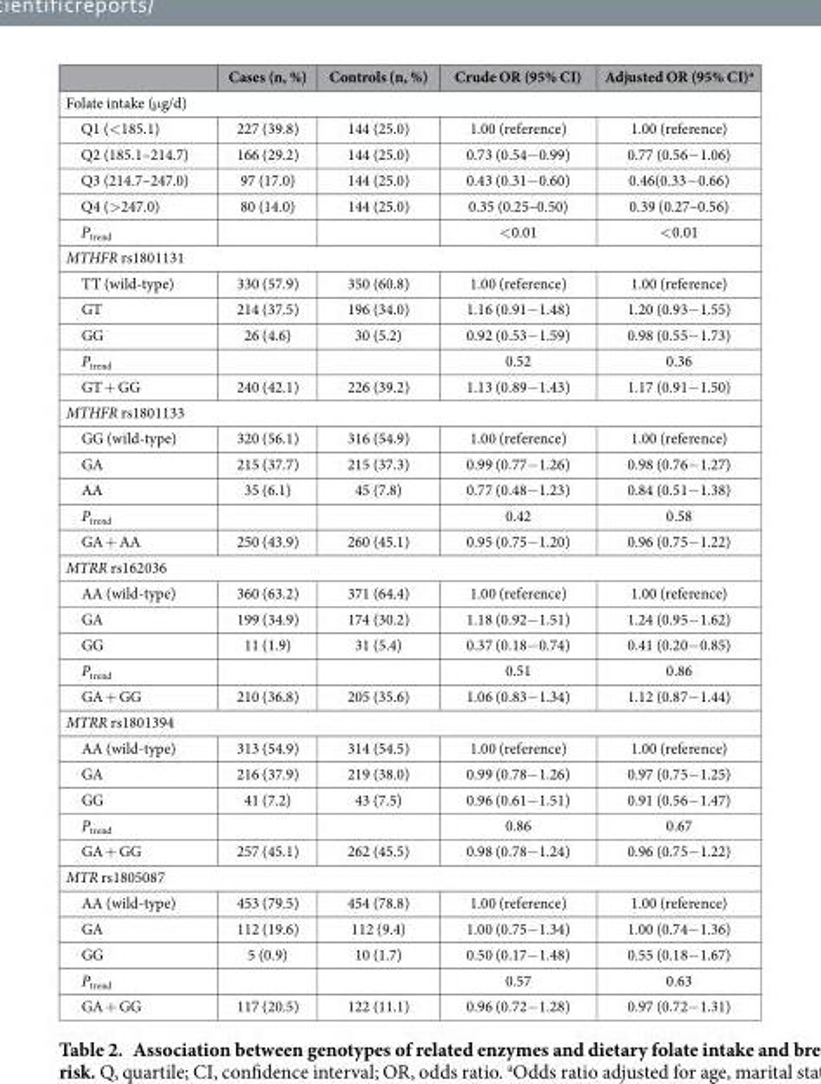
<table><thead><tr><td></td><td>Cases (n, %)</td><td>Controls (n, %)</td><td>Crude OR (95% CI)</td><td>Adjusted OR (95% CI)<sup>a</sup></td></tr></thead><tbody><tr><td colspan="5">Folate intake (μ g/d)</td></tr><tr><td>Q1 (&lt; 185.1)</td><td>227 (39.8)</td><td>144 (25.0)</td><td>1.00 (reference)</td><td>1.00 (reference)</td></tr><tr><td>Q2 (185.1–214.7)</td><td>166 (29.2)</td><td>144 (25.0)</td><td>0.73 (0.54− 0.99)</td><td>0.77 (0.56− 1.06)</td></tr><tr><td>Q3 (214.7–247.0)</td><td>97 (17.0)</td><td>144 (25.0)</td><td>0.43 (0.31− 0.60)</td><td>0.46(0.33− 0.66)</td></tr><tr><td>Q4 (&gt; 247.0)</td><td>80 (14.0)</td><td>144 (25.0)</td><td>0.35 (0.25–0.50)</td><td>0.39 (0.27–0.56)</td></tr><tr><td>P<sub>trend</sub></td><td></td><td></td><td>&lt; 0.01</td><td>&lt; 0.01</td></tr><tr><td colspan="5">MTHFR rs1801131</td></tr><tr><td>TT (wild-type)</td><td>330 (57.9)</td><td>350 (60.8)</td><td>1.00 (reference)</td><td>1.00 (reference)</td></tr><tr><td>GT</td><td>214 (37.5)</td><td>196 (34.0)</td><td>1.16 (0.91− 1.48)</td><td>1.20 (0.93− 1.55)</td></tr><tr><td>GG</td><td>26 (4.6)</td><td>30 (5.2)</td><td>0.92 (0.53− 1.59)</td><td>0.98 (0.55− 1.73)</td></tr><tr><td>P<sub>trend</sub></td><td></td><td></td><td>0.52</td><td>0.36</td></tr><tr><td>GT + GG</td><td>240 (42.1)</td><td>226 (39.2)</td><td>1.13 (0.89− 1.43)</td><td>1.17 (0.91− 1.50)</td></tr><tr><td colspan="5">MTHFR rs1801133</td></tr><tr><td>GG (wild-type)</td><td>320 (56.1)</td><td>316 (54.9)</td><td>1.00 (reference)</td><td>1.00 (reference)</td></tr><tr><td>GA</td><td>215 (37.7)</td><td>215 (37.3)</td><td>0.99 (0.77− 1.26)</td><td>0.98 (0.76− 1.27)</td></tr><tr><td>AA</td><td>35 (6.1)</td><td>45 (7.8)</td><td>0.77 (0.48− 1.23)</td><td>0.84 (0.51− 1.38)</td></tr><tr><td>P<sub>trend</sub></td><td></td><td></td><td>0.42</td><td>0.58</td></tr><tr><td>GA + AA</td><td>250 (43.9)</td><td>260 (45.1)</td><td>0.95 (0.75− 1.20)</td><td>0.96 (0.75− 1.22)</td></tr><tr><td colspan="5">MTRR rs162036</td></tr><tr><td>AA (wild-type)</td><td>360 (63.2)</td><td>371 (64.4)</td><td>1.00 (reference)</td><td>1.00 (reference)</td></tr><tr><td>GA</td><td>199 (34.9)</td><td>174 (30.2)</td><td>1.18 (0.92− 1.51)</td><td>1.24 (0.95− 1.62)</td></tr><tr><td>GG</td><td>11 (1.9)</td><td>31 (5.4)</td><td>0.37 (0.18− 0.74)</td><td>0.41 (0.20− 0.85)</td></tr><tr><td>P<sub>trend</sub></td><td></td><td></td><td>0.51</td><td>0.86</td></tr><tr><td>GA + GG</td><td>210 (36.8)</td><td>205 (35.6)</td><td>1.06 (0.83− 1.34)</td><td>1.12 (0.87− 1.44)</td></tr><tr><td colspan="5">MTRR rs1801394</td></tr><tr><td>AA (wild-type)</td><td>313 (54.9)</td><td>314 (54.5)</td><td>1.00 (reference)</td><td>1.00 (reference)</td></tr><tr><td>GA</td><td>216 (37.9)</td><td>219 (38.0)</td><td>0.99 (0.78− 1.26)</td><td>0.97 (0.75− 1.25)</td></tr><tr><td>GG</td><td>41 (7.2)</td><td>43 (7.5)</td><td>0.96 (0.61− 1.51)</td><td>0.91 (0.56− 1.47)</td></tr><tr><td>P<sub>trend</sub></td><td></td><td></td><td>0.86</td><td>0.67</td></tr><tr><td>GA + GG</td><td>257 (45.1)</td><td>262 (45.5)</td><td>0.98 (0.78− 1.24)</td><td>0.96 (0.75− 1.22)</td></tr><tr><td colspan="5">MTR rs1805087</td></tr><tr><td>AA (wild-type)</td><td>453 (79.5)</td><td>454 (78.8)</td><td>1.00 (reference)</td><td>1.00 (reference)</td></tr><tr><td>GA</td><td>112 (19.6)</td><td>112 (9.4)</td><td>1.00 (0.75− 1.34)</td><td>1.00 (0.74− 1.36)</td></tr><tr><td>GG</td><td>5 (0.9)</td><td>10 (1.7)</td><td>0.50 (0.17− 1.48)</td><td>0.55 (0.18− 1.67)</td></tr><tr><td>P<sub>trend</sub></td><td></td><td></td><td>0.57</td><td>0.63</td></tr><tr><td>GA + GG</td><td>117 (20.5)</td><td>122 (11.1)</td><td>0.96 (0.72− 1.28)</td><td>0.97 (0.72− 1.31)</td></tr></tbody></table>